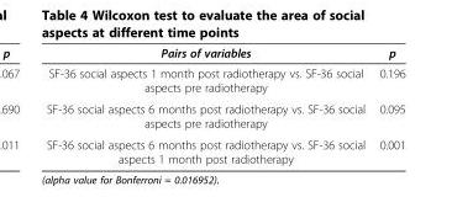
<table><thead><tr><td>Pairs of variables</td><td>p</td></tr></thead><tbody><tr><td>SF-36 social aspects 1 month post radiotherapy vs. SF-36 social aspects pre radiotherapy</td><td>0.196</td></tr><tr><td>SF-36 social aspects 6 months post radiotherapy vs. SF-36 social aspects pre radiotherapy</td><td>0.095</td></tr><tr><td>SF-36 social aspects 6 months post radiotherapy vs. SF-36 social aspects 1 month post radiotherapy</td><td>0.001</td></tr></tbody></table>